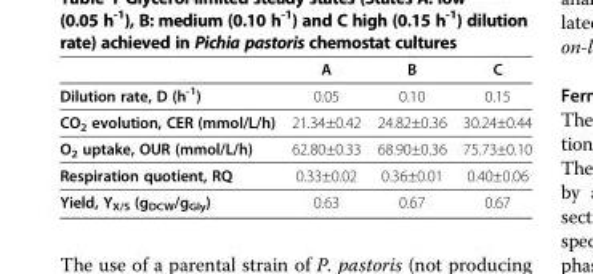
<table><thead><tr><td></td><td>A</td><td>B</td><td>C</td></tr></thead><tbody><tr><td>Dilution rate, D (h<sup>-1</sup>)</td><td>0.05</td><td>0.10</td><td>0.15</td></tr><tr><td>CO<sub>2</sub> evolution, CER (mmol/L/h)</td><td>21.34±0.42</td><td>24.82±0.36</td><td>30.24±0.44</td></tr><tr><td>O<sub>2</sub> uptake, OUR (mmol/L/h)</td><td>62.80±0.33</td><td>68.90±0.36</td><td>75.73±0.10</td></tr><tr><td>Respiration quotient, RQ</td><td>0.33±0.02</td><td>0.36±0.01</td><td>0.40±0.06</td></tr><tr><td>Yield, Y<sub>X/S</sub> (g<sub>DCW</sub>/g<sub>Gly</sub>)</td><td>0.63</td><td>0.67</td><td>0.67</td></tr></tbody></table>